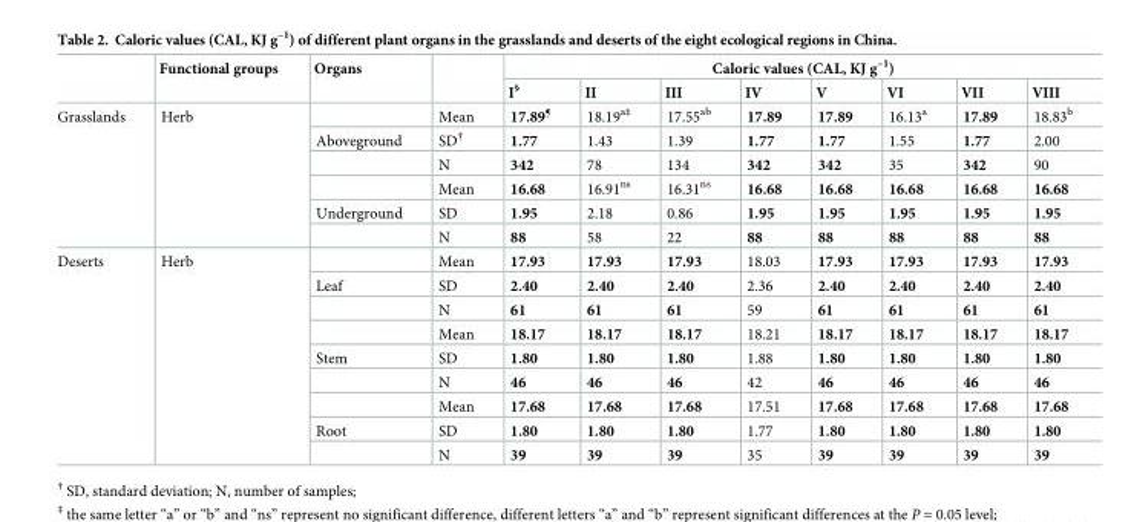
<table><thead><tr><td rowspan="2"></td><td rowspan="2">Functional groups</td><td rowspan="2">Organs</td><td rowspan="2"></td><td colspan="8">Caloric values (CAL, KJ g<sup>–1</sup>)</td></tr><tr><td>I<sup>§</sup></td><td>II</td><td>III</td><td>IV</td><td>V</td><td>VI</td><td>VII</td><td>VIII</td></tr></thead><tbody><tr><td rowspan="6">Grasslands</td><td rowspan="6">Herb</td><td></td><td>Mean</td><td>17.89<sup>¶</sup></td><td>18.19<sup>a‡</sup></td><td>17.55<sup>ab</sup></td><td>17.89</td><td>17.89</td><td>16.13<sup>a</sup></td><td>17.89</td><td>18.83<sup>b</sup></td></tr><tr><td>Aboveground</td><td>SD<sup>†</sup></td><td>1.77</td><td>1.43</td><td>1.39</td><td>1.77</td><td>1.77</td><td>1.55</td><td>1.77</td><td>2.00</td></tr><tr><td></td><td>N</td><td>342</td><td>78</td><td>134</td><td>342</td><td>342</td><td>35</td><td>342</td><td>90</td></tr><tr><td></td><td>Mean</td><td>16.68</td><td>16.91<sup>ns</sup></td><td>16.31<sup>ns</sup></td><td>16.68</td><td>16.68</td><td>16.68</td><td>16.68</td><td>16.68</td></tr><tr><td>Underground</td><td>SD</td><td>1.95</td><td>2.18</td><td>0.86</td><td>1.95</td><td>1.95</td><td>1.95</td><td>1.95</td><td>1.95</td></tr><tr><td></td><td>N</td><td>88</td><td>58</td><td>22</td><td>88</td><td>88</td><td>88</td><td>88</td><td>88</td></tr><tr><td rowspan="9">Deserts</td><td rowspan="9">Herb</td><td></td><td>Mean</td><td>17.93</td><td>17.93</td><td>17.93</td><td>18.03</td><td>17.93</td><td>17.93</td><td>17.93</td><td>17.93</td></tr><tr><td>Leaf</td><td>SD</td><td>2.40</td><td>2.40</td><td>2.40</td><td>2.36</td><td>2.40</td><td>2.40</td><td>2.40</td><td>2.40</td></tr><tr><td></td><td>N</td><td>61</td><td>61</td><td>61</td><td>59</td><td>61</td><td>61</td><td>61</td><td>61</td></tr><tr><td></td><td>Mean</td><td>18.17</td><td>18.17</td><td>18.17</td><td>18.21</td><td>18.17</td><td>18.17</td><td>18.17</td><td>18.17</td></tr><tr><td>Stem</td><td>SD</td><td>1.80</td><td>1.80</td><td>1.80</td><td>1.88</td><td>1.80</td><td>1.80</td><td>1.80</td><td>1.80</td></tr><tr><td></td><td>N</td><td>46</td><td>46</td><td>46</td><td>42</td><td>46</td><td>46</td><td>46</td><td>46</td></tr><tr><td></td><td>Mean</td><td>17.68</td><td>17.68</td><td>17.68</td><td>17.51</td><td>17.68</td><td>17.68</td><td>17.68</td><td>17.68</td></tr><tr><td>Root</td><td>SD</td><td>1.80</td><td>1.80</td><td>1.80</td><td>1.77</td><td>1.80</td><td>1.80</td><td>1.80</td><td>1.80</td></tr><tr><td></td><td>N</td><td>39</td><td>39</td><td>39</td><td>35</td><td>39</td><td>39</td><td>39</td><td>39</td></tr></tbody></table>